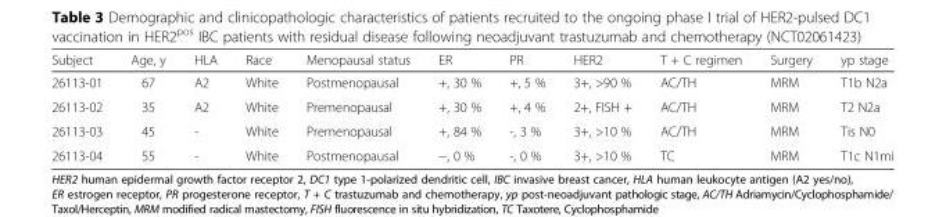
<table><thead><tr><td>Subject</td><td>Age, y</td><td>HLA</td><td>Race</td><td>Menopausal status</td><td>ER</td><td>PR</td><td>HER2</td><td>T + C regimen</td><td>Surgery</td><td>yp stage</td></tr></thead><tbody><tr><td>26113-01</td><td>67</td><td>A2</td><td>White</td><td>Postmenopausal</td><td>+, 30 %</td><td>+, 5 %</td><td>3+, &gt;90 %</td><td>AC/TH</td><td>MRM</td><td>T1b N2a</td></tr><tr><td>26113-02</td><td>35</td><td>A2</td><td>White</td><td>Premenopausal</td><td>+, 30 %</td><td>+, 4 %</td><td>2+, FISH +</td><td>AC/TH</td><td>MRM</td><td>T2 N2a</td></tr><tr><td>26113-03</td><td>45</td><td>-</td><td>White</td><td>Premenopausal</td><td>+, 84 %</td><td>-, 3 %</td><td>3+, &gt;10 %</td><td>AC/TH</td><td>MRM</td><td>Tis N0</td></tr><tr><td>26113-04</td><td>55</td><td>-</td><td>White</td><td>Postmenopausal</td><td>−, 0 %</td><td>-, 0 %</td><td>3+, &gt;10 %</td><td>TC</td><td>MRM</td><td>T1c N1mi</td></tr></tbody></table>